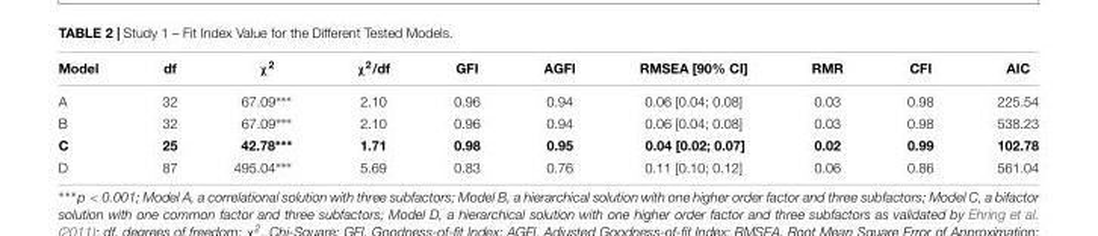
<table><thead><tr><td>Model</td><td>df</td><td>χ<sup>2</sup></td><td>χ<sup>2</sup>/df</td><td>GFI</td><td>AGFI</td><td>RMSEA [90% CI]</td><td>RMR</td><td>CFI</td><td>AIC</td></tr></thead><tbody><tr><td>A</td><td>32</td><td>67.09∗∗∗</td><td>2.10</td><td>0.96</td><td>0.94</td><td>0.06 [0.04; 0.08]</td><td>0.03</td><td>0.98</td><td>225.54</td></tr><tr><td>B</td><td>32</td><td>67.09∗∗∗</td><td>2.10</td><td>0.96</td><td>0.94</td><td>0.06 [0.04; 0.08]</td><td>0.03</td><td>0.98</td><td>538.23</td></tr><tr><td>C</td><td>25</td><td>42.78∗∗∗</td><td>1.71</td><td>0.98</td><td>0.95</td><td>0.04 [0.02; 0.07]</td><td>0.02</td><td>0.99</td><td>102.78</td></tr><tr><td>D</td><td>87</td><td>495.04∗∗∗</td><td>5.69</td><td>0.83</td><td>0.76</td><td>0.11 [0.10; 0.12]</td><td>0.06</td><td>0.86</td><td>561.04</td></tr></tbody></table>